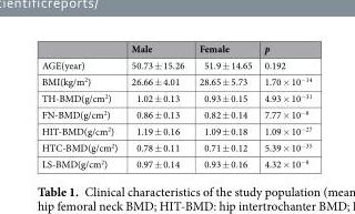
<table><thead><tr><td></td><td>Male</td><td>Female</td><td>p</td></tr></thead><tbody><tr><td>AGE(year)</td><td>50.73 ± 15.26</td><td>51.9 ± 14.65</td><td>0.192</td></tr><tr><td>BMI(kg/m<sup>2</sup>)</td><td>26.66 ± 4.01</td><td>28.65 ± 5.73</td><td>1.70 × 10<sup>−14</sup></td></tr><tr><td>TH-BMD(g/cm<sup>2</sup>)</td><td>1.02 ± 0.13</td><td>0.93 ± 0.15</td><td>4.93 × 10<sup>−31</sup></td></tr><tr><td>FN-BMD(g/cm<sup>2</sup>)</td><td>0.86 ± 0.13</td><td>0.82 ± 0.14</td><td>7.77 × 10<sup>−8</sup></td></tr><tr><td>HIT-BMD(g/cm<sup>2</sup>)</td><td>1.19 ± 0.16</td><td>1.09 ± 0.18</td><td>1.09 × 10<sup>−27</sup></td></tr><tr><td>HTC-BMD(g/cm<sup>2</sup>)</td><td>0.78 ± 0.11</td><td>0.71 ± 0.12</td><td>5.39 × 10<sup>−35</sup></td></tr><tr><td>LS-BMD(g/cm<sup>2</sup>)</td><td>0.97 ± 0.14</td><td>0.93 ± 0.16</td><td>4.32 × 10<sup>−8</sup></td></tr></tbody></table>